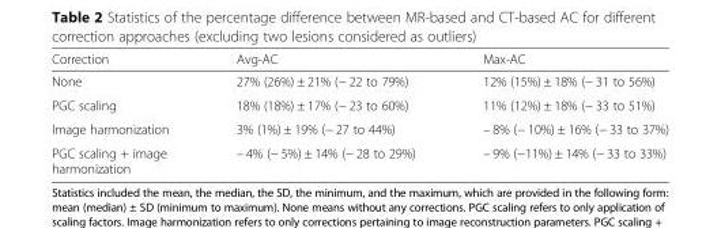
<table><thead><tr><td>Correction</td><td>Avg-AC</td><td>Max-AC</td></tr></thead><tbody><tr><td>None</td><td>27% (26%) ± 21% (− 22 to 79%)</td><td>12% (15%) ± 18% (− 31 to 56%)</td></tr><tr><td>PGC scaling</td><td>18% (18%) ± 17% (− 23 to 60%)</td><td>11% (12%) ± 18% (− 33 to 51%)</td></tr><tr><td>Image harmonization</td><td>3% (1%) ± 19% (− 27 to 44%)</td><td>– 8% (− 10%) ± 16% (− 33 to 37%)</td></tr><tr><td>PGC scaling + image harmonization</td><td>– 4% (− 5%) ± 14% (− 28 to 29%)</td><td>– 9% (−11%) ± 14% (− 33 to 33%)</td></tr></tbody></table>